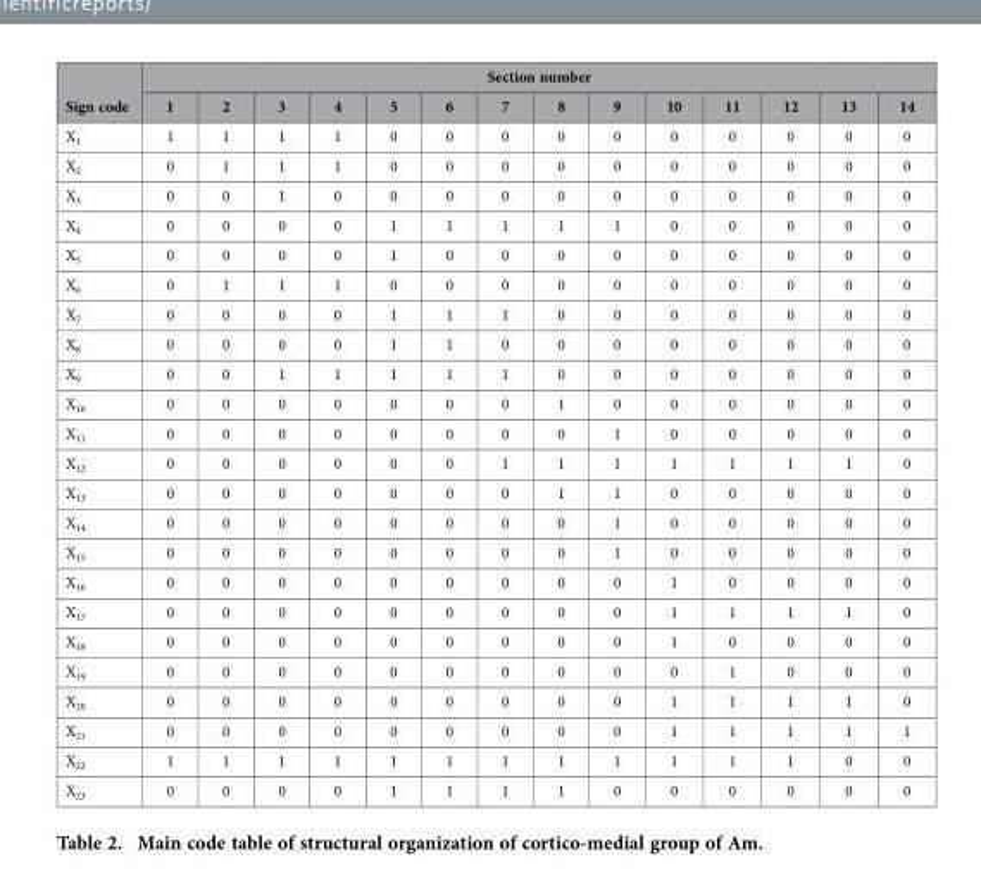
<table><thead><tr><td rowspan="2">Sign code</td><td colspan="14">Section number</td></tr><tr><td>1</td><td>2</td><td>3</td><td>4</td><td>5</td><td>6</td><td>7</td><td>8</td><td>9</td><td>10</td><td>11</td><td>12</td><td>13</td><td>14</td></tr></thead><tbody><tr><td>X<sub>1</sub></td><td>1</td><td>1</td><td>1</td><td>1</td><td>0</td><td>0</td><td>0</td><td>0</td><td>0</td><td>0</td><td>0</td><td>0</td><td>0</td><td>0</td></tr><tr><td>X<sub>2</sub></td><td>0</td><td>1</td><td>1</td><td>1</td><td>0</td><td>0</td><td>0</td><td>0</td><td>0</td><td>0</td><td>0</td><td>0</td><td>0</td><td>0</td></tr><tr><td>X<sub>3</sub></td><td>0</td><td>0</td><td>1</td><td>0</td><td>0</td><td>0</td><td>0</td><td>0</td><td>0</td><td>0</td><td>0</td><td>0</td><td>0</td><td>0</td></tr><tr><td>X<sub>4</sub></td><td>0</td><td>0</td><td>0</td><td>0</td><td>1</td><td>1</td><td>1</td><td>1</td><td>1</td><td>0</td><td>0</td><td>0</td><td>0</td><td>0</td></tr><tr><td>X<sub>5</sub></td><td>0</td><td>0</td><td>0</td><td>0</td><td>1</td><td>0</td><td>0</td><td>0</td><td>0</td><td>0</td><td>0</td><td>0</td><td>0</td><td>0</td></tr><tr><td>X<sub>6</sub></td><td>0</td><td>1</td><td>1</td><td>1</td><td>0</td><td>0</td><td>0</td><td>0</td><td>0</td><td>0</td><td>0</td><td>0</td><td>0</td><td>0</td></tr><tr><td>X<sub>7</sub></td><td>0</td><td>0</td><td>0</td><td>0</td><td>1</td><td>1</td><td>1</td><td>0</td><td>0</td><td>0</td><td>0</td><td>0</td><td>0</td><td>0</td></tr><tr><td>X<sub>8</sub></td><td>0</td><td>0</td><td>0</td><td>0</td><td>1</td><td>1</td><td>0</td><td>0</td><td>0</td><td>0</td><td>0</td><td>0</td><td>0</td><td>0</td></tr><tr><td>X<sub>9</sub></td><td>0</td><td>0</td><td>1</td><td>1</td><td>1</td><td>1</td><td>1</td><td>0</td><td>0</td><td>0</td><td>0</td><td>0</td><td>0</td><td>0</td></tr><tr><td>X<sub>10</sub></td><td>0</td><td>0</td><td>0</td><td>0</td><td>0</td><td>0</td><td>0</td><td>1</td><td>0</td><td>0</td><td>0</td><td>0</td><td>0</td><td>0</td></tr><tr><td>X<sub>11</sub></td><td>0</td><td>0</td><td>0</td><td>0</td><td>0</td><td>0</td><td>0</td><td>0</td><td>1</td><td>0</td><td>0</td><td>0</td><td>0</td><td>0</td></tr><tr><td>X<sub>12</sub></td><td>0</td><td>0</td><td>0</td><td>0</td><td>0</td><td>0</td><td>1</td><td>1</td><td>1</td><td>1</td><td>1</td><td>1</td><td>1</td><td>0</td></tr><tr><td>X<sub>13</sub></td><td>0</td><td>0</td><td>0</td><td>0</td><td>0</td><td>0</td><td>0</td><td>1</td><td>1</td><td>0</td><td>0</td><td>0</td><td>0</td><td>0</td></tr><tr><td>X<sub>14</sub></td><td>0</td><td>0</td><td>0</td><td>0</td><td>0</td><td>0</td><td>0</td><td>0</td><td>1</td><td>0</td><td>0</td><td>0</td><td>0</td><td>0</td></tr><tr><td>X<sub>15</sub></td><td>0</td><td>0</td><td>0</td><td>0</td><td>0</td><td>0</td><td>0</td><td>0</td><td>1</td><td>0</td><td>0</td><td>0</td><td>0</td><td>0</td></tr><tr><td>X<sub>16</sub></td><td>0</td><td>0</td><td>0</td><td>0</td><td>0</td><td>0</td><td>0</td><td>0</td><td>0</td><td>1</td><td>0</td><td>0</td><td>0</td><td>0</td></tr><tr><td>X<sub>17</sub></td><td>0</td><td>0</td><td>0</td><td>0</td><td>0</td><td>0</td><td>0</td><td>0</td><td>0</td><td>1</td><td>1</td><td>1</td><td>1</td><td>0</td></tr><tr><td>X<sub>18</sub></td><td>0</td><td>0</td><td>0</td><td>0</td><td>0</td><td>0</td><td>0</td><td>0</td><td>0</td><td>1</td><td>0</td><td>0</td><td>0</td><td>0</td></tr><tr><td>X<sub>19</sub></td><td>0</td><td>0</td><td>0</td><td>0</td><td>0</td><td>0</td><td>0</td><td>0</td><td>0</td><td>0</td><td>1</td><td>0</td><td>0</td><td>0</td></tr><tr><td>X<sub>20</sub></td><td>0</td><td>0</td><td>0</td><td>0</td><td>0</td><td>0</td><td>0</td><td>0</td><td>0</td><td>1</td><td>1</td><td>1</td><td>1</td><td>0</td></tr><tr><td>X<sub>21</sub></td><td>0</td><td>0</td><td>0</td><td>0</td><td>0</td><td>0</td><td>0</td><td>0</td><td>0</td><td>1</td><td>1</td><td>1</td><td>1</td><td>1</td></tr><tr><td>X<sub>22</sub></td><td>1</td><td>1</td><td>1</td><td>1</td><td>1</td><td>1</td><td>1</td><td>1</td><td>1</td><td>1</td><td>1</td><td>1</td><td>0</td><td>0</td></tr><tr><td>X<sub>23</sub></td><td>0</td><td>0</td><td>0</td><td>0</td><td>1</td><td>1</td><td>1</td><td>1</td><td>0</td><td>0</td><td>0</td><td>0</td><td>0</td><td>0</td></tr></tbody></table>